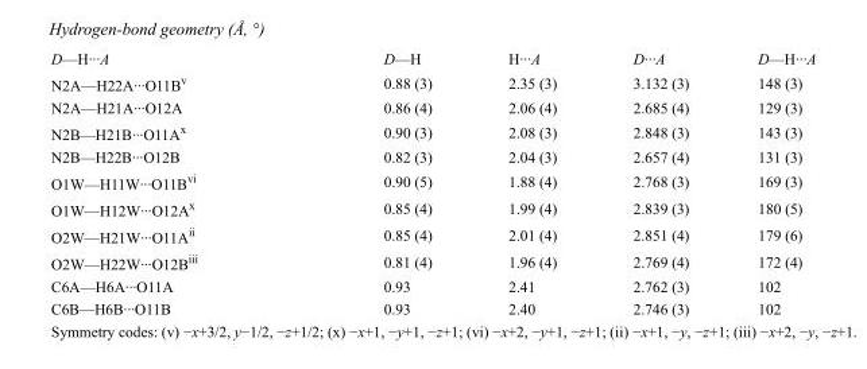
<table><tbody><tr><td>D—H···A</td><td>D—H</td><td>H···A</td><td>D···A</td><td>D—H···A</td></tr><tr><td>N2A—H22A···O11B<sup>v</sup></td><td>0.88 (3)</td><td>2.35 (3)</td><td>3.132 (3)</td><td>148 (3)</td></tr><tr><td>N2A—H21A···O12A</td><td>0.86 (4)</td><td>2.06 (4)</td><td>2.685 (4)</td><td>129 (3)</td></tr><tr><td>N2B—H21B···O11A<sup>x</sup></td><td>0.90 (3)</td><td>2.08 (3)</td><td>2.848 (3)</td><td>143 (3)</td></tr><tr><td>N2B—H22B···O12B</td><td>0.82 (3)</td><td>2.04 (3)</td><td>2.657 (4)</td><td>131 (3)</td></tr><tr><td>O1W—H11W···O11B<sup>vi</sup></td><td>0.90 (5)</td><td>1.88 (4)</td><td>2.768 (3)</td><td>169 (3)</td></tr><tr><td>O1W—H12W···O12A<sup>x</sup></td><td>0.85 (4)</td><td>1.99 (4)</td><td>2.839 (3)</td><td>180 (5)</td></tr><tr><td>O2W—H21W···O11A<sup>ii</sup></td><td>0.85 (4)</td><td>2.01 (4)</td><td>2.851 (4)</td><td>179 (6)</td></tr><tr><td>O2W—H22W···O12B<sup>iii</sup></td><td>0.81 (4)</td><td>1.96 (4)</td><td>2.769 (4)</td><td>172 (4)</td></tr><tr><td>C6A—H6A···O11A</td><td>0.93</td><td>2.41</td><td>2.762 (3)</td><td>102</td></tr><tr><td>C6B—H6B···O11B</td><td>0.93</td><td>2.40</td><td>2.746 (3)</td><td>102</td></tr></tbody></table>